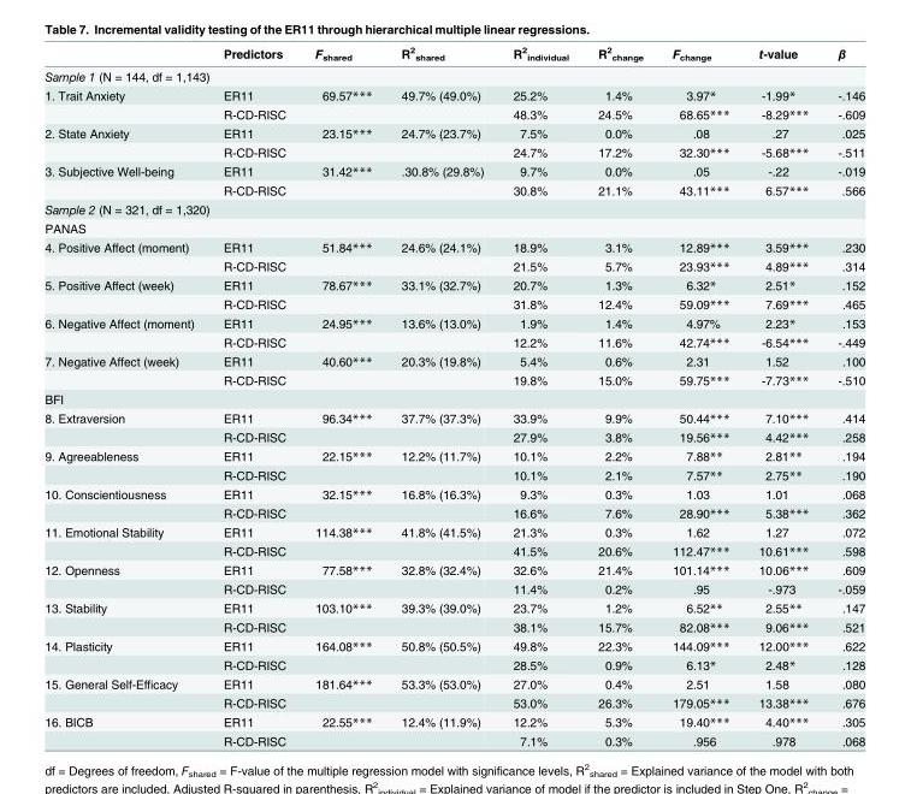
<table><thead><tr><td></td><td>Predictors</td><td>F<sub>shared</sub></td><td>R<sup>2</sup> <sub>shared</sub></td><td>R<sup>2</sup> <sub>individual</sub></td><td>R<sup>2</sup> <sub>change</sub></td><td>F<sub>change</sub></td><td>t-value</td><td>β</td></tr></thead><tbody><tr><td colspan="9">Sample 1 (N = 144, df = 1,143)</td></tr><tr><td rowspan="2">1. Trait Anxiety</td><td>ER11</td><td>69.57***</td><td>49.7% (49.0%)</td><td>25.2%</td><td>1.4%</td><td>3.97*</td><td>-1.99*</td><td>-.146</td></tr><tr><td>R-CD-RISC</td><td></td><td></td><td>48.3%</td><td>24.5%</td><td>68.65***</td><td>-8.29***</td><td>-.609</td></tr><tr><td rowspan="2">2. State Anxiety</td><td>ER11</td><td>23.15***</td><td>24.7% (23.7%)</td><td>7.5%</td><td>0.0%</td><td>.08</td><td>.27</td><td>.025</td></tr><tr><td>R-CD-RISC</td><td></td><td></td><td>24.7%</td><td>17.2%</td><td>32.30***</td><td>-5.68***</td><td>-.511</td></tr><tr><td rowspan="2">3. Subjective Well-being</td><td>ER11</td><td>31.42***</td><td>.30.8% (29.8%)</td><td>9.7%</td><td>0.0%</td><td>.05</td><td>-.22</td><td>-.019</td></tr><tr><td>R-CD-RISC</td><td></td><td></td><td>30.8%</td><td>21.1%</td><td>43.11***</td><td>6.57***</td><td>.566</td></tr><tr><td colspan="9">Sample 2 (N = 321, df = 1,320)</td></tr><tr><td colspan="9">PANAS</td></tr><tr><td rowspan="2">4. Positive Affect (moment)</td><td>ER11</td><td>51.84***</td><td>24.6% (24.1%)</td><td>18.9%</td><td>3.1%</td><td>12.89***</td><td>3.59***</td><td>.230</td></tr><tr><td>R-CD-RISC</td><td></td><td></td><td>21.5%</td><td>5.7%</td><td>23.93***</td><td>4.89***</td><td>.314</td></tr><tr><td rowspan="2">5. Positive Affect (week)</td><td>ER11</td><td>78.67***</td><td>33.1% (32.7%)</td><td>20.7%</td><td>1.3%</td><td>6.32*</td><td>2.51*</td><td>.152</td></tr><tr><td>R-CD-RISC</td><td></td><td></td><td>31.8%</td><td>12.4%</td><td>59.09***</td><td>7.69***</td><td>.465</td></tr><tr><td rowspan="2">6. Negative Affect (moment)</td><td>ER11</td><td>24.95***</td><td>13.6% (13.0%)</td><td>1.9%</td><td>1.4%</td><td>4.97%</td><td>2.23*</td><td>.153</td></tr><tr><td>R-CD-RISC</td><td></td><td></td><td>12.2%</td><td>11.6%</td><td>42.74***</td><td>-6.54***</td><td>-.449</td></tr><tr><td rowspan="2">7. Negative Affect (week)</td><td>ER11</td><td>40.60***</td><td>20.3% (19.8%)</td><td>5.4%</td><td>0.6%</td><td>2.31</td><td>1.52</td><td>.100</td></tr><tr><td>R-CD-RISC</td><td></td><td></td><td>19.8%</td><td>15.0%</td><td>59.75***</td><td>-7.73***</td><td>-.510</td></tr><tr><td colspan="9">BFI</td></tr><tr><td rowspan="2">8. Extraversion</td><td>ER11</td><td>96.34***</td><td>37.7% (37.3%)</td><td>33.9%</td><td>9.9%</td><td>50.44***</td><td>7.10***</td><td>.414</td></tr><tr><td>R-CD-RISC</td><td></td><td></td><td>27.9%</td><td>3.8%</td><td>19.56***</td><td>4.42***</td><td>.258</td></tr><tr><td rowspan="2">9. Agreeableness</td><td>ER11</td><td>22.15***</td><td>12.2% (11.7%)</td><td>10.1%</td><td>2.2%</td><td>7.88**</td><td>2.81**</td><td>.194</td></tr><tr><td>R-CD-RISC</td><td></td><td></td><td>10.1%</td><td>2.1%</td><td>7.57**</td><td>2.75**</td><td>.190</td></tr><tr><td rowspan="2">10. Conscientiousness</td><td>ER11</td><td>32.15***</td><td>16.8% (16.3%)</td><td>9.3%</td><td>0.3%</td><td>1.03</td><td>1.01</td><td>.068</td></tr><tr><td>R-CD-RISC</td><td></td><td></td><td>16.6%</td><td>7.6%</td><td>28.90***</td><td>5.38***</td><td>.362</td></tr><tr><td rowspan="2">11. Emotional Stability</td><td>ER11</td><td>114.38***</td><td>41.8% (41.5%)</td><td>21.3%</td><td>0.3%</td><td>1.62</td><td>1.27</td><td>.072</td></tr><tr><td>R-CD-RISC</td><td></td><td></td><td>41.5%</td><td>20.6%</td><td>112.47***</td><td>10.61***</td><td>.598</td></tr><tr><td rowspan="2">12. Openness</td><td>ER11</td><td>77.58***</td><td>32.8% (32.4%)</td><td>32.6%</td><td>21.4%</td><td>101.14***</td><td>10.06***</td><td>.609</td></tr><tr><td>R-CD-RISC</td><td></td><td></td><td>11.4%</td><td>0.2%</td><td>.95</td><td>-.973</td><td>-.059</td></tr><tr><td rowspan="2">13. Stability</td><td>ER11</td><td>103.10***</td><td>39.3% (39.0%)</td><td>23.7%</td><td>1.2%</td><td>6.52**</td><td>2.55**</td><td>.147</td></tr><tr><td>R-CD-RISC</td><td></td><td></td><td>38.1%</td><td>15.7%</td><td>82.08***</td><td>9.06***</td><td>.521</td></tr><tr><td rowspan="2">14. Plasticity</td><td>ER11</td><td>164.08***</td><td>50.8% (50.5%)</td><td>49.8%</td><td>22.3%</td><td>144.09***</td><td>12.00***</td><td>.622</td></tr><tr><td>R-CD-RISC</td><td></td><td></td><td>28.5%</td><td>0.9%</td><td>6.13*</td><td>2.48*</td><td>.128</td></tr><tr><td rowspan="2">15. General Self-Efficacy</td><td>ER11</td><td>181.64***</td><td>53.3% (53.0%)</td><td>27.0%</td><td>0.4%</td><td>2.51</td><td>1.58</td><td>.080</td></tr><tr><td>R-CD-RISC</td><td></td><td></td><td>53.0%</td><td>26.3%</td><td>179.05***</td><td>13.38***</td><td>.676</td></tr><tr><td rowspan="2">16. BICB</td><td>ER11</td><td>22.55***</td><td>12.4% (11.9%)</td><td>12.2%</td><td>5.3%</td><td>19.40***</td><td>4.40***</td><td>.305</td></tr><tr><td>R-CD-RISC</td><td></td><td></td><td>7.1%</td><td>0.3%</td><td>.956</td><td>.978</td><td>.068</td></tr></tbody></table>